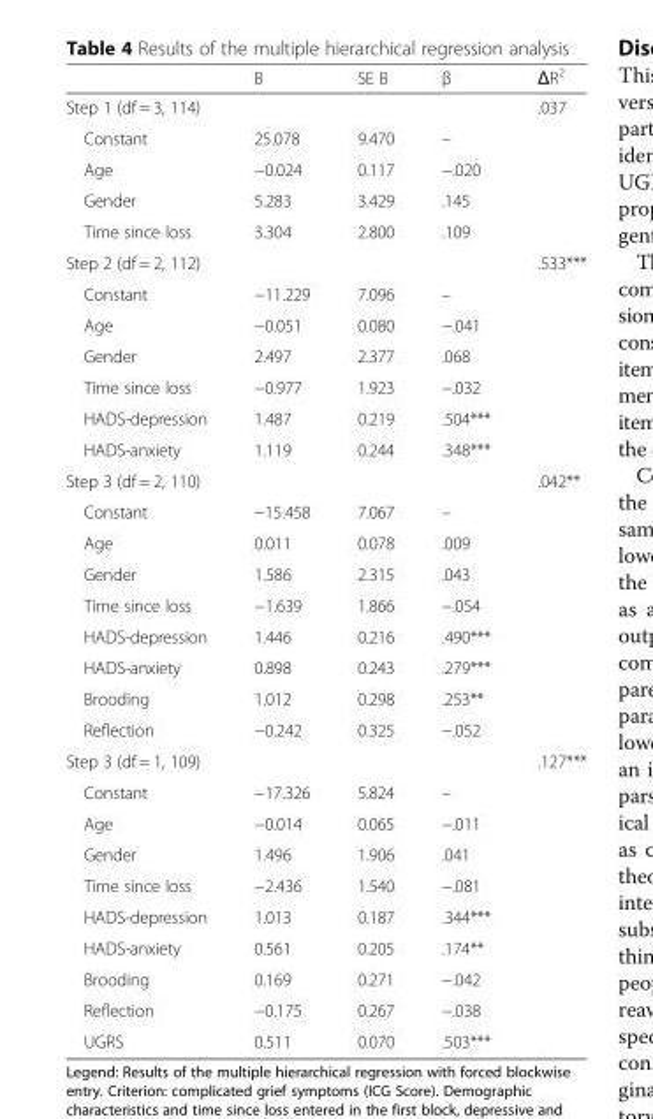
<table><thead><tr><td></td><td>B</td><td>SE B</td><td>β</td><td>ΔR<sup>2</sup></td></tr></thead><tbody><tr><td>Step 1 (df = 3, 114)</td><td></td><td></td><td></td><td>.037</td></tr><tr><td>Constant</td><td>25.078</td><td>9.470</td><td>–</td><td></td></tr><tr><td>Age</td><td>−0.024</td><td>0.117</td><td>−.020</td><td></td></tr><tr><td>Gender</td><td>5.283</td><td>3.429</td><td>.145</td><td></td></tr><tr><td>Time since loss</td><td>3.304</td><td>2.800</td><td>.109</td><td></td></tr><tr><td>Step 2 (df = 2, 112)</td><td></td><td></td><td></td><td>.533***</td></tr><tr><td>Constant</td><td>−11.229</td><td>7.096</td><td>–</td><td></td></tr><tr><td>Age</td><td>−0.051</td><td>0.080</td><td>−.041</td><td></td></tr><tr><td>Gender</td><td>2.497</td><td>2.377</td><td>.068</td><td></td></tr><tr><td>Time since loss</td><td>−0.977</td><td>1.923</td><td>−.032</td><td></td></tr><tr><td>HADS-depression</td><td>1.487</td><td>0.219</td><td>.504***</td><td></td></tr><tr><td>HADS-anxiety</td><td>1.119</td><td>0.244</td><td>.348***</td><td></td></tr><tr><td>Step 3 (df = 2, 110)</td><td></td><td></td><td></td><td>.042**</td></tr><tr><td>Constant</td><td>−15.458</td><td>7.067</td><td>–</td><td></td></tr><tr><td>Age</td><td>0.011</td><td>0.078</td><td>.009</td><td></td></tr><tr><td>Gender</td><td>1.586</td><td>2.315</td><td>.043</td><td></td></tr><tr><td>Time since loss</td><td>−1.639</td><td>1.866</td><td>−.054</td><td></td></tr><tr><td>HADS-depression</td><td>1.446</td><td>0.216</td><td>.490***</td><td></td></tr><tr><td>HADS-anxiety</td><td>0.898</td><td>0.243</td><td>.279***</td><td></td></tr><tr><td>Brooding</td><td>1.012</td><td>0.298</td><td>.253**</td><td></td></tr><tr><td>Reflection</td><td>−0.242</td><td>0.325</td><td>−.052</td><td></td></tr><tr><td>Step 3 (df = 1, 109)</td><td></td><td></td><td></td><td>.127***</td></tr><tr><td>Constant</td><td>−17.326</td><td>5.824</td><td>–</td><td></td></tr><tr><td>Age</td><td>−0.014</td><td>0.065</td><td>−.011</td><td></td></tr><tr><td>Gender</td><td>1.496</td><td>1.906</td><td>.041</td><td></td></tr><tr><td>Time since loss</td><td>−2.436</td><td>1.540</td><td>−.081</td><td></td></tr><tr><td>HADS-depression</td><td>1.013</td><td>0.187</td><td>.344***</td><td></td></tr><tr><td>HADS-anxiety</td><td>0.561</td><td>0.205</td><td>.174**</td><td></td></tr><tr><td>Brooding</td><td>0.169</td><td>0.271</td><td>−.042</td><td></td></tr><tr><td>Reflection</td><td>−0.175</td><td>0.267</td><td>−.038</td><td></td></tr><tr><td>UGRS</td><td>0.511</td><td>0.070</td><td>.503***</td><td></td></tr></tbody></table>